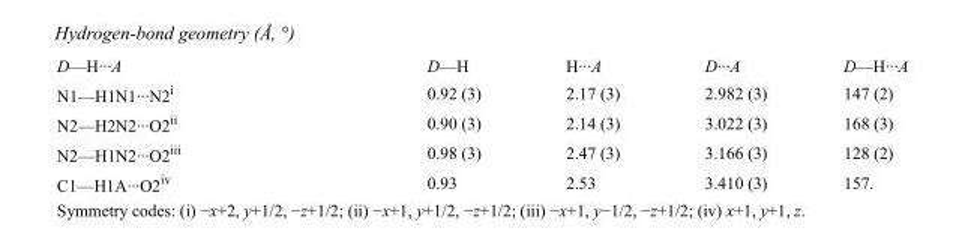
<table><tbody><tr><td>D—H···A</td><td>D—H</td><td>H···A</td><td>D···A</td><td>D—H···A</td></tr><tr><td>N1—H1N1···N2<sup>i</sup></td><td>0.92 (3)</td><td>2.17 (3)</td><td>2.982 (3)</td><td>147 (2)</td></tr><tr><td>N2—H2N2···O2<sup>ii</sup></td><td>0.90 (3)</td><td>2.14 (3)</td><td>3.022 (3)</td><td>168 (3)</td></tr><tr><td>N2—H1N2···O2<sup>iii</sup></td><td>0.98 (3)</td><td>2.47 (3)</td><td>3.166 (3)</td><td>128 (2)</td></tr><tr><td>C1—H1A···O2<sup>iv</sup></td><td>0.93</td><td>2.53</td><td>3.410 (3)</td><td>157.</td></tr></tbody></table>